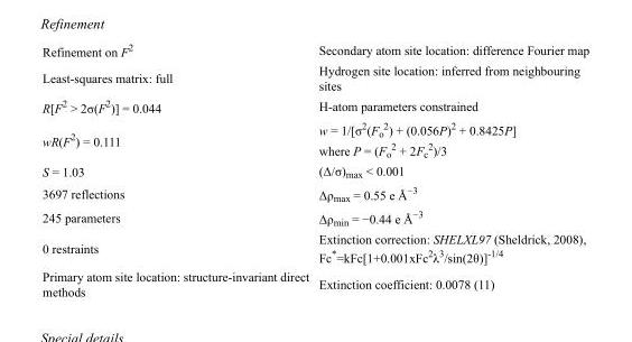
<table><tbody><tr><td>Refinement on F<sup>2</sup></td><td>Secondary atom site location: difference Fourier map</td></tr><tr><td>Least-squares matrix: full</td><td>Hydrogen site location: inferred from neighbouring sites</td></tr><tr><td>R[F<sup>2</sup> &gt; 2σ(F<sup>2</sup>)] = 0.044</td><td>H-atom parameters constrained</td></tr><tr><td>wR(F<sup>2</sup>) = 0.111</td><td>w = 1/[σ<sup>2</sup>(F<sub>o</sub> <sup>2</sup>) + (0.056P)<sup>2</sup> + 0.8425P] where P = (F<sub>o</sub> <sup>2</sup> + 2F<sub>c</sub> <sup>2</sup>)/3</td></tr><tr><td>S = 1.03</td><td>(Δ/σ)<sub>max</sub> &lt; 0.001</td></tr><tr><td>3697 reflections</td><td>Δρ<sub>max</sub> = 0.55 e Å<sup>−3</sup></td></tr><tr><td>245 parameters</td><td>Δρ<sub>min</sub> = −0.44 e Å<sup>−3</sup></td></tr><tr><td>0 restraints</td><td>Extinction correction: SHELXL97 (Sheldrick, 2008), Fc*=kFc[1+0.001xFc<sup>2</sup>λ<sup>3</sup>/sin(2θ)]<sup>-1/4</sup></td></tr><tr><td>Primary atom site location: structure-invariant direct methods</td><td>Extinction coefficient: 0.0078 (11)</td></tr></tbody></table>